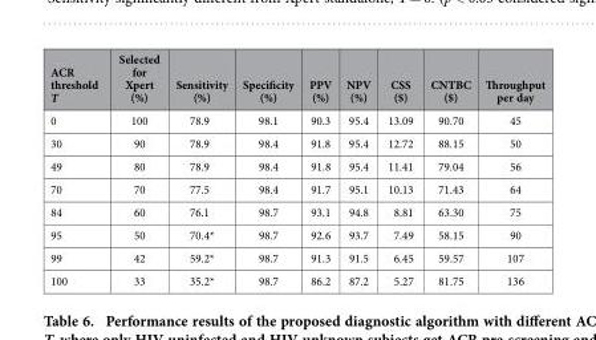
<table><thead><tr><td>ACR threshold T</td><td>Selected for Xpert (%)</td><td>Sensitivity (%)</td><td>Specificity (%)</td><td>PPV (%)</td><td>NPV (%)</td><td>CSS ($)</td><td>CNTBC ($)</td><td>Throughput per day</td></tr></thead><tbody><tr><td>0</td><td>100</td><td>78.9</td><td>98.1</td><td>90.3</td><td>95.4</td><td>13.09</td><td>90.70</td><td>45</td></tr><tr><td>30</td><td>90</td><td>78.9</td><td>98.4</td><td>91.8</td><td>95.4</td><td>12.72</td><td>88.15</td><td>50</td></tr><tr><td>49</td><td>80</td><td>78.9</td><td>98.4</td><td>91.8</td><td>95.4</td><td>11.41</td><td>79.04</td><td>56</td></tr><tr><td>70</td><td>70</td><td>77.5</td><td>98.4</td><td>91.7</td><td>95.1</td><td>10.13</td><td>71.43</td><td>64</td></tr><tr><td>84</td><td>60</td><td>76.1</td><td>98.7</td><td>93.1</td><td>94.8</td><td>8.81</td><td>63.30</td><td>75</td></tr><tr><td>95</td><td>50</td><td>70.4*</td><td>98.7</td><td>92.6</td><td>93.7</td><td>7.49</td><td>58.15</td><td>90</td></tr><tr><td>99</td><td>42</td><td>59.2*</td><td>98.7</td><td>91.3</td><td>91.5</td><td>6.45</td><td>59.57</td><td>107</td></tr><tr><td>100</td><td>33</td><td>35.2*</td><td>98.7</td><td>86.2</td><td>87.2</td><td>5.27</td><td>81.75</td><td>136</td></tr></tbody></table>